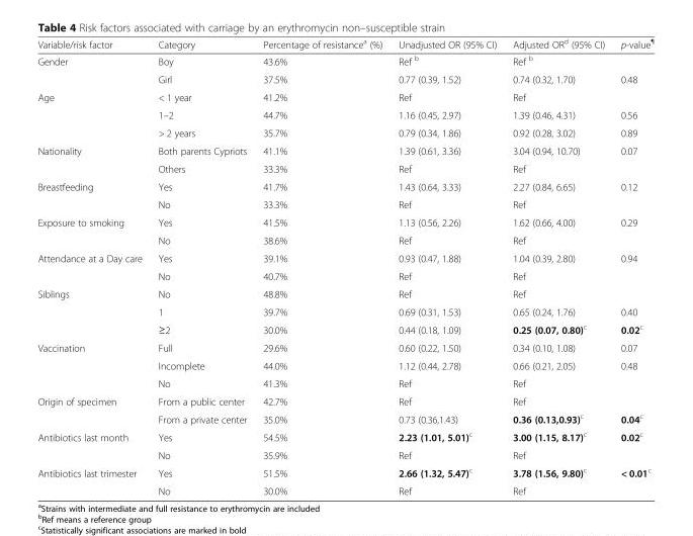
<table><thead><tr><td>Variable/risk factor</td><td>Category</td><td>Percentage of resistance<sup>a</sup> (%)</td><td>Unadjusted OR (95% CI)</td><td>Adjusted OR<sup>d</sup> (95% CI)</td><td>p-value<sup>¶</sup></td></tr></thead><tbody><tr><td rowspan="2">Gender</td><td>Boy</td><td>43.6%</td><td>Ref <sup>b</sup></td><td>Ref <sup>b</sup></td><td></td></tr><tr><td>Girl</td><td>37.5%</td><td>0.77 (0.39, 1.52)</td><td>0.74 (0.32, 1.70)</td><td>0.48</td></tr><tr><td rowspan="3">Age</td><td>&lt; 1 year</td><td>41.2%</td><td>Ref</td><td>Ref</td><td></td></tr><tr><td>1–2</td><td>44.7%</td><td>1.16 (0.45, 2.97)</td><td>1.39 (0.46, 4.31)</td><td>0.56</td></tr><tr><td>&gt; 2 years</td><td>35.7%</td><td>0.79 (0.34, 1.86)</td><td>0.92 (0.28, 3.02)</td><td>0.89</td></tr><tr><td rowspan="2">Nationality</td><td>Both parents Cypriots</td><td>41.1%</td><td>1.39 (0.61, 3.36)</td><td>3.04 (0.94, 10.70)</td><td>0.07</td></tr><tr><td>Others</td><td>33.3%</td><td>Ref</td><td>Ref</td><td></td></tr><tr><td rowspan="2">Breastfeeding</td><td>Yes</td><td>41.7%</td><td>1.43 (0.64, 3.33)</td><td>2.27 (0.84, 6.65)</td><td>0.12</td></tr><tr><td>No</td><td>33.3%</td><td>Ref</td><td>Ref</td><td></td></tr><tr><td rowspan="2">Exposure to smoking</td><td>Yes</td><td>41.5%</td><td>1.13 (0.56, 2.26)</td><td>1.62 (0.66, 4.00)</td><td>0.29</td></tr><tr><td>No</td><td>38.6%</td><td>Ref</td><td>Ref</td><td></td></tr><tr><td rowspan="2">Attendance at a Day care</td><td>Yes</td><td>39.1%</td><td>0.93 (0.47, 1.88)</td><td>1.04 (0.39, 2.80)</td><td>0.94</td></tr><tr><td>No</td><td>40.7%</td><td>Ref</td><td>Ref</td><td></td></tr><tr><td rowspan="3">Siblings</td><td>No</td><td>48.8%</td><td>Ref</td><td>Ref</td><td></td></tr><tr><td>1</td><td>39.7%</td><td>0.69 (0.31, 1.53)</td><td>0.65 (0.24, 1.76)</td><td>0.40</td></tr><tr><td>≥2</td><td>30.0%</td><td>0.44 (0.18, 1.09)</td><td>0.25 (0.07, 0.80)<sup>c</sup></td><td>0.02<sup>c</sup></td></tr><tr><td rowspan="3">Vaccination</td><td>Full</td><td>29.6%</td><td>0.60 (0.22, 1.50)</td><td>0.34 (0.10, 1.08)</td><td>0.07</td></tr><tr><td>Incomplete</td><td>44.0%</td><td>1.12 (0.44, 2.78)</td><td>0.66 (0.21, 2.05)</td><td>0.48</td></tr><tr><td>No</td><td>41.3%</td><td>Ref</td><td>Ref</td><td></td></tr><tr><td rowspan="2">Origin of specimen</td><td>From a public center</td><td>42.7%</td><td>Ref</td><td>Ref</td><td></td></tr><tr><td>From a private center</td><td>35.0%</td><td>0.73 (0.36,1.43)</td><td>0.36 (0.13,0.93)<sup>c</sup></td><td>0.04<sup>c</sup></td></tr><tr><td rowspan="2">Antibiotics last month</td><td>Yes</td><td>54.5%</td><td>2.23 (1.01, 5.01)<sup>c</sup></td><td>3.00 (1.15, 8.17)<sup>c</sup></td><td>0.02<sup>c</sup></td></tr><tr><td>No</td><td>35.9%</td><td>Ref</td><td>Ref</td><td></td></tr><tr><td rowspan="2">Antibiotics last trimester</td><td>Yes</td><td>51.5%</td><td>2.66 (1.32, 5.47)<sup>c</sup></td><td>3.78 (1.56, 9.80)<sup>c</sup></td><td>&lt; 0.01<sup>c</sup></td></tr><tr><td>No</td><td>30.0%</td><td>Ref</td><td>Ref</td><td></td></tr></tbody></table>